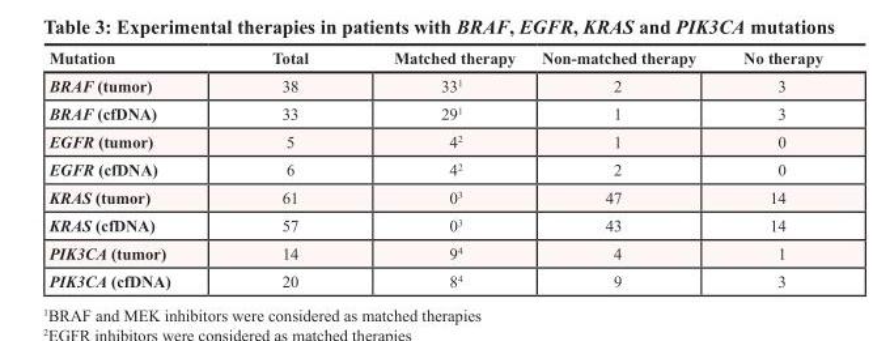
<table><thead><tr><td>Mutation</td><td>Total</td><td>Matched therapy</td><td>Non-matched therapy</td><td>No therapy</td></tr></thead><tbody><tr><td>BRAF (tumor)</td><td>38</td><td>33<sup>1</sup></td><td>2</td><td>3</td></tr><tr><td>BRAF (cfDNA)</td><td>33</td><td>29<sup>1</sup></td><td>1</td><td>3</td></tr><tr><td>EGFR (tumor)</td><td>5</td><td>4<sup>2</sup></td><td>1</td><td>0</td></tr><tr><td>EGFR (cfDNA)</td><td>6</td><td>4<sup>2</sup></td><td>2</td><td>0</td></tr><tr><td>KRAS (tumor)</td><td>61</td><td>0<sup>3</sup></td><td>47</td><td>14</td></tr><tr><td>KRAS (cfDNA)</td><td>57</td><td>0<sup>3</sup></td><td>43</td><td>14</td></tr><tr><td>PIK3CA (tumor)</td><td>14</td><td>9<sup>4</sup></td><td>4</td><td>1</td></tr><tr><td>PIK3CA (cfDNA)</td><td>20</td><td>8<sup>4</sup></td><td>9</td><td>3</td></tr></tbody></table>